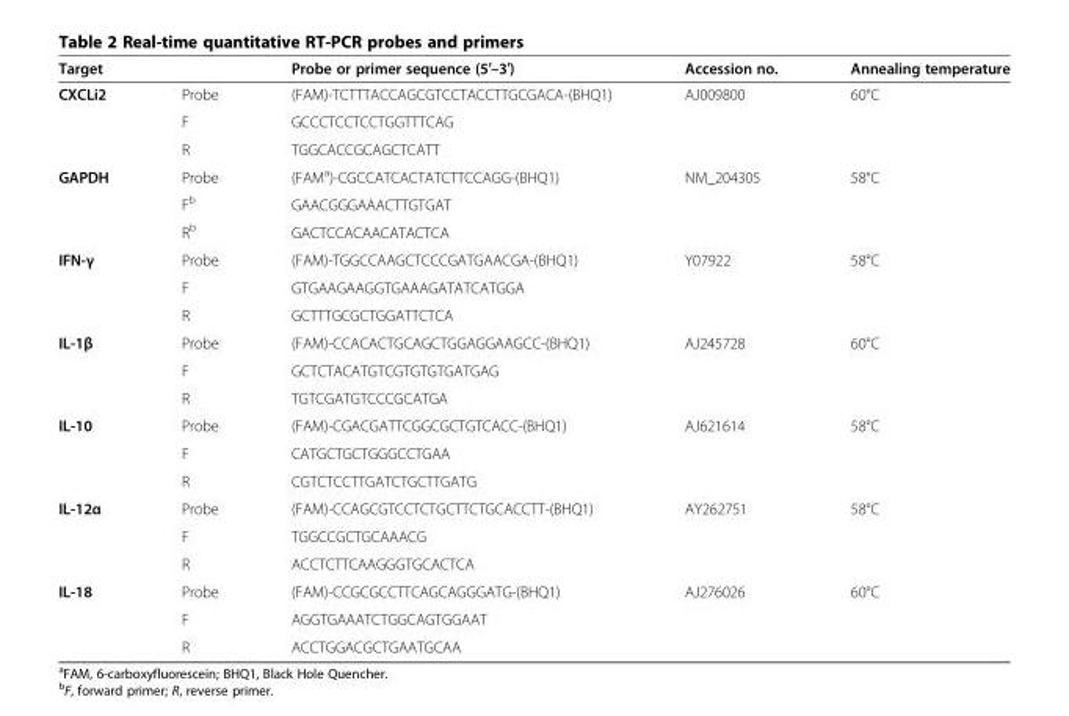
<table><thead><tr><td>Target</td><td></td><td>Probe or primer sequence (5′–3′)</td><td>Accession no.</td><td>Annealing temperature</td></tr></thead><tbody><tr><td rowspan="3">CXCLi2</td><td>Probe</td><td>(FAM)-TCTTTACCAGCGTCCTACCTTGCGACA-(BHQ1)</td><td rowspan="3">AJ009800</td><td>60°C</td></tr><tr><td>F</td><td>GCCCTCCTCCTGGTTTCAG</td><td></td></tr><tr><td>R</td><td>TGGCACCGCAGCTCATT</td><td></td></tr><tr><td rowspan="3">GAPDH</td><td>Probe</td><td>(FAM<sup>a</sup>)-CGCCATCACTATCTTCCAGG-(BHQ1)</td><td rowspan="3">NM_204305</td><td>58°C</td></tr><tr><td>F<sup>b</sup></td><td>GAACGGGAAACTTGTGAT</td><td></td></tr><tr><td>R<sup>b</sup></td><td>GACTCCACAACATACTCA</td><td></td></tr><tr><td rowspan="3">IFN-γ</td><td>Probe</td><td>(FAM)-TGGCCAAGCTCCCGATGAACGA-(BHQ1)</td><td rowspan="3">Y07922</td><td>58°C</td></tr><tr><td>F</td><td>GTGAAGAAGGTGAAAGATATCATGGA</td><td></td></tr><tr><td>R</td><td>GCTTTGCGCTGGATTCTCA</td><td></td></tr><tr><td rowspan="3">IL-1β</td><td>Probe</td><td>(FAM)-CCACACTGCAGCTGGAGGAAGCC-(BHQ1)</td><td rowspan="3">AJ245728</td><td>60°C</td></tr><tr><td>F</td><td>GCTCTACATGTCGTGTGTGATGAG</td><td></td></tr><tr><td>R</td><td>TGTCGATGTCCCGCATGA</td><td></td></tr><tr><td rowspan="3">IL-10</td><td>Probe</td><td>(FAM)-CGACGATTCGGCGCTGTCACC-(BHQ1)</td><td rowspan="3">AJ621614</td><td>58°C</td></tr><tr><td>F</td><td>CATGCTGCTGGGCCTGAA</td><td></td></tr><tr><td>R</td><td>CGTCTCCTTGATCTGCTTGATG</td><td></td></tr><tr><td rowspan="3">IL-12α</td><td>Probe</td><td>(FAM)-CCAGCGTCCTCTGCTTCTGCACCTT-(BHQ1)</td><td rowspan="3">AY262751</td><td>58°C</td></tr><tr><td>F</td><td>TGGCCGCTGCAAACG</td><td></td></tr><tr><td>R</td><td>ACCTCTTCAAGGGTGCACTCA</td><td></td></tr><tr><td rowspan="3">IL-18</td><td>Probe</td><td>(FAM)-CCGCGCCTTCAGCAGGGATG-(BHQ1)</td><td rowspan="3">AJ276026</td><td>60°C</td></tr><tr><td>F</td><td>AGGTGAAATCTGGCAGTGGAAT</td><td></td></tr><tr><td>R</td><td>ACCTGGACGCTGAATGCAA</td><td></td></tr></tbody></table>